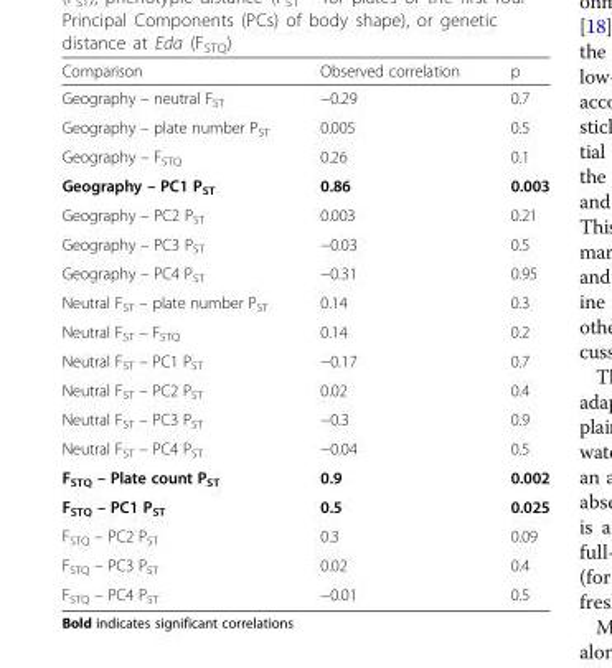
<table><thead><tr><td>Comparison</td><td>Observed correlation</td><td>p</td></tr></thead><tbody><tr><td>Geography – neutral F<sub>ST</sub></td><td>−0.29</td><td>0.7</td></tr><tr><td>Geography – plate number P<sub>ST</sub></td><td>0.005</td><td>0.5</td></tr><tr><td>Geography – F<sub>STQ</sub></td><td>0.26</td><td>0.1</td></tr><tr><td>Geography – PC1 P<sub>ST</sub></td><td>0.86</td><td>0.003</td></tr><tr><td>Geography – PC2 P<sub>ST</sub></td><td>0.003</td><td>0.21</td></tr><tr><td>Geography – PC3 P<sub>ST</sub></td><td>−0.03</td><td>0.5</td></tr><tr><td>Geography – PC4 P<sub>ST</sub></td><td>−0.31</td><td>0.95</td></tr><tr><td>Neutral F<sub>ST</sub> – plate number P<sub>ST</sub></td><td>0.14</td><td>0.3</td></tr><tr><td>Neutral F<sub>ST</sub> – F<sub>STQ</sub></td><td>0.14</td><td>0.2</td></tr><tr><td>Neutral F<sub>ST</sub> – PC1 P<sub>ST</sub></td><td>−0.17</td><td>0.7</td></tr><tr><td>Neutral F<sub>ST</sub> – PC2 P<sub>ST</sub></td><td>0.02</td><td>0.4</td></tr><tr><td>Neutral F<sub>ST</sub> – PC3 P<sub>ST</sub></td><td>−0.3</td><td>0.9</td></tr><tr><td>Neutral F<sub>ST</sub> – PC4 P<sub>ST</sub></td><td>−0.04</td><td>0.5</td></tr><tr><td>F<sub>STQ</sub> – Plate count P<sub>ST</sub></td><td>0.9</td><td>0.002</td></tr><tr><td>F<sub>STQ</sub> – PC1 P<sub>ST</sub></td><td>0.5</td><td>0.025</td></tr><tr><td>F<sub>STQ</sub> – PC2 P<sub>ST</sub></td><td>0.3</td><td>0.09</td></tr><tr><td>F<sub>STQ</sub> – PC3 P<sub>ST</sub></td><td>0.02</td><td>0.4</td></tr><tr><td>F<sub>STQ</sub> – PC4 P<sub>ST</sub></td><td>−0.01</td><td>0.5</td></tr></tbody></table>